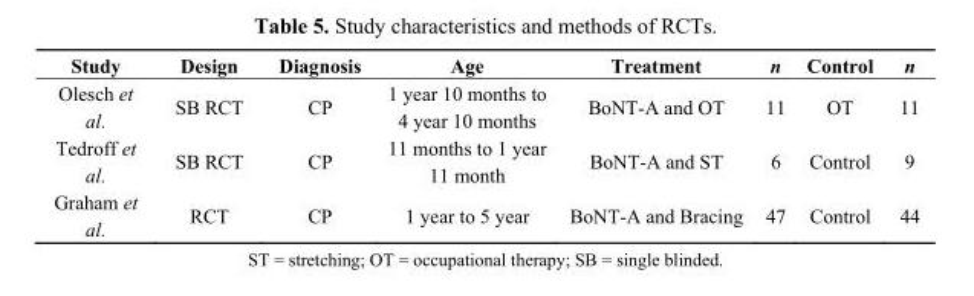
<table><thead><tr><td>Study</td><td>Design</td><td>Diagnosis</td><td>Age</td><td>Treatment</td><td>n</td><td>Control</td><td>n</td></tr></thead><tbody><tr><td>Olesch et al.</td><td>SB RCT</td><td>CP</td><td>1 year 10 months to 4 year 10 months</td><td>BoNT-A and OT</td><td>11</td><td>OT</td><td>11</td></tr><tr><td>Tedroff et al.</td><td>SB RCT</td><td>CP</td><td>11 months to 1 year 11 month</td><td>BoNT-A and ST</td><td>6</td><td>Control</td><td>9</td></tr><tr><td>Graham et al.</td><td>RCT</td><td>CP</td><td>1 year to 5 year</td><td>BoNT-A and Bracing</td><td>47</td><td>Control</td><td>44</td></tr></tbody></table>